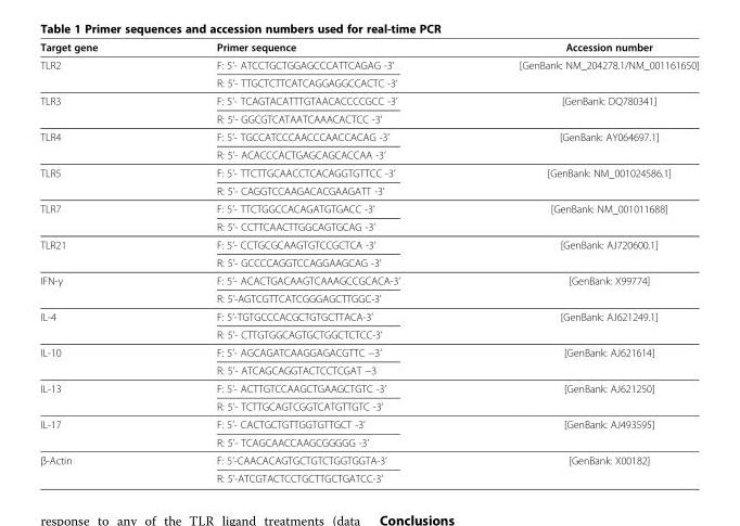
<table><thead><tr><td>Target gene</td><td>Primer sequence</td><td>Accession number</td></tr></thead><tbody><tr><td rowspan="2">TLR2</td><td>F: 5’- ATCCTGCTGGAGCCCATTCAGAG -3’</td><td>[GenBank: NM_204278.1/NM_001161650]</td></tr><tr><td>R: 5’- TTGCTCTTCATCAGGAGGCCACTC -3’</td><td></td></tr><tr><td rowspan="2">TLR3</td><td>F: 5’- TCAGTACATTTGTAACACCCCGCC -3’</td><td>[GenBank: DQ780341]</td></tr><tr><td>R: 5’- GGCGTCATAATCAAACACTCC -3’</td><td></td></tr><tr><td rowspan="2">TLR4</td><td>F: 5’- TGCCATCCCAACCCAACCACAG -3’</td><td>[GenBank: AY064697.1]</td></tr><tr><td>R: 5’- ACACCCACTGAGCAGCACCAA -3’</td><td></td></tr><tr><td rowspan="2">TLR5</td><td>F: 5’- TTCTTGCAACCTCACAGGTGTTCC -3’</td><td>[GenBank: NM_001024586.1]</td></tr><tr><td>R: 5’- CAGGTCCAAGACACGAAGATT -3’</td><td></td></tr><tr><td rowspan="2">TLR7</td><td>F: 5’- TTCTGGCCACAGATGTGACC -3’</td><td>[GenBank: NM_001011688]</td></tr><tr><td>R: 5’- CCTTCAACTTGGCAGTGCAG -3’</td><td></td></tr><tr><td rowspan="2">TLR21</td><td>F: 5’- CCTGCGCAAGTGTCCGCTCA -3’</td><td>[GenBank: AJ720600.1]</td></tr><tr><td>R: 5’- GCCCCAGGTCCAGGAAGCAG -3’</td><td></td></tr><tr><td rowspan="2">IFN-γ</td><td>F: 5’- ACACTGACAAGTCAAAGCCGCACA-3’</td><td>[GenBank: X99774]</td></tr><tr><td>R: 5’-AGTCGTTCATCGGGAGCTTGGC-3’</td><td></td></tr><tr><td rowspan="2">IL-4</td><td>F: 5’-TGTGCCCACGCTGTGCTTACA-3’</td><td>[GenBank: AJ621249.1]</td></tr><tr><td>R: 5’- CTTGTGGCAGTGCTGGCTCTCC-3’</td><td></td></tr><tr><td rowspan="2">IL-10</td><td>F: 5’- AGCAGATCAAGGAGACGTTC −3’</td><td>[GenBank: AJ621614]</td></tr><tr><td>R: 5’- ATCAGCAGGTACTCCTCGAT −3</td><td></td></tr><tr><td rowspan="2">IL-13</td><td>F: 5’- ACTTGTCCAAGCTGAAGCTGTC -3’</td><td>[GenBank: AJ621250]</td></tr><tr><td>R: 5’- TCTTGCAGTCGGTCATGTTGTC -3’</td><td></td></tr><tr><td rowspan="2">IL-17</td><td>F: 5’- CACTGCTGTTGGTGTTGCT -3’</td><td>[GenBank: AJ493595]</td></tr><tr><td>R: 5’- TCAGCAACCAAGCGGGGG -3’</td><td></td></tr><tr><td rowspan="2">β-Actin</td><td>F: 5’-CAACACAGTGCTGTCTGGTGGTA-3’</td><td>[GenBank: X00182]</td></tr><tr><td>R: 5’-ATCGTACTCCTGCTTGCTGATCC-3’</td><td></td></tr></tbody></table>